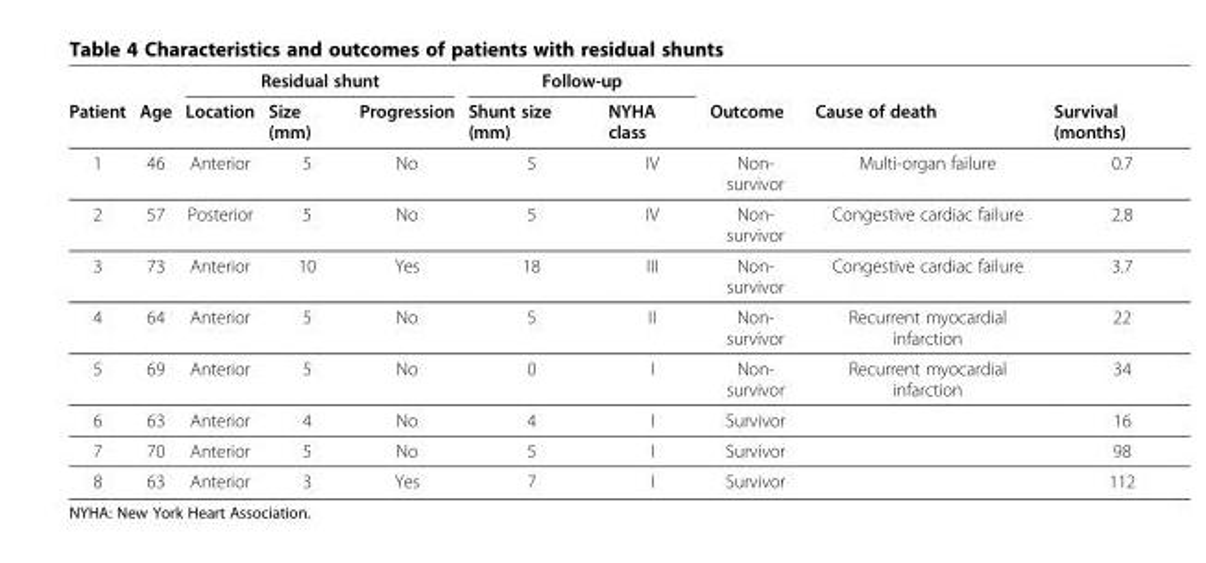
<table><thead><tr><td rowspan="2">Patient</td><td rowspan="2">Age</td><td colspan="3">Residual shunt</td><td colspan="2">Follow-up</td><td rowspan="2">Outcome</td><td rowspan="2">Cause of death</td><td rowspan="2">Survival (months)</td></tr><tr><td>Location</td><td>Size (mm)</td><td>Progression</td><td>Shunt size (mm)</td><td>NYHA class</td></tr></thead><tbody><tr><td>1</td><td>46</td><td>Anterior</td><td>5</td><td>No</td><td>5</td><td>IV</td><td>Non- survivor</td><td>Multi-organ failure</td><td>0.7</td></tr><tr><td>2</td><td>57</td><td>Posterior</td><td>5</td><td>No</td><td>5</td><td>IV</td><td>Non- survivor</td><td>Congestive cardiac failure</td><td>2.8</td></tr><tr><td>3</td><td>73</td><td>Anterior</td><td>10</td><td>Yes</td><td>18</td><td>III</td><td>Non- survivor</td><td>Congestive cardiac failure</td><td>3.7</td></tr><tr><td>4</td><td>64</td><td>Anterior</td><td>5</td><td>No</td><td>5</td><td>II</td><td>Non- survivor</td><td>Recurrent myocardial infarction</td><td>22</td></tr><tr><td>5</td><td>69</td><td>Anterior</td><td>5</td><td>No</td><td>0</td><td>I</td><td>Non- survivor</td><td>Recurrent myocardial infarction</td><td>34</td></tr><tr><td>6</td><td>63</td><td>Anterior</td><td>4</td><td>No</td><td>4</td><td>I</td><td>Survivor</td><td></td><td>16</td></tr><tr><td>7</td><td>70</td><td>Anterior</td><td>5</td><td>No</td><td>5</td><td>I</td><td>Survivor</td><td></td><td>98</td></tr><tr><td>8</td><td>63</td><td>Anterior</td><td>3</td><td>Yes</td><td>7</td><td>I</td><td>Survivor</td><td></td><td>112</td></tr></tbody></table>